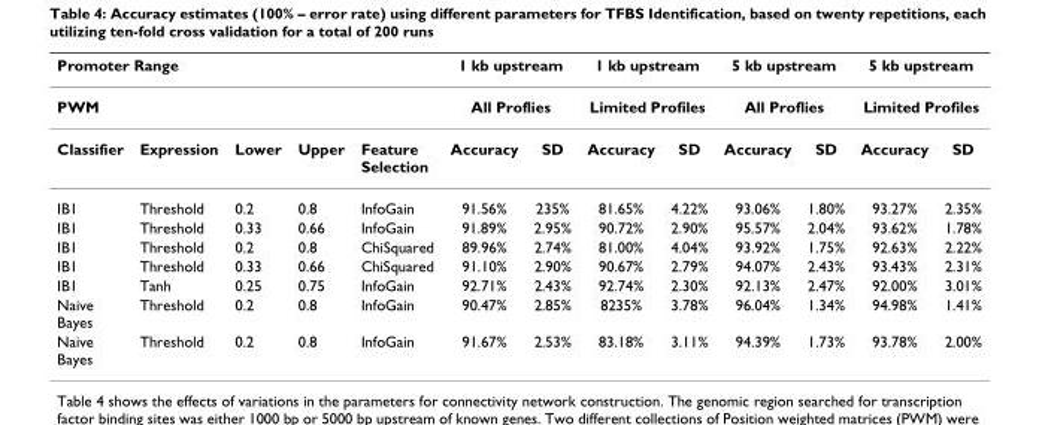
<table><thead><tr><td rowspan="2" colspan="5">Promoter Range PWM</td><td rowspan="2" colspan="2">1 kb upstream All Proflies</td><td rowspan="2" colspan="2">1 kb upstream Limited Profiles</td><td rowspan="2" colspan="2">5 kb upstream All Proflies</td><td rowspan="2" colspan="2">5 kb upstream Limited Profiles</td></tr><tr></tr><tr><td>Classifier</td><td>Expression</td><td>Lower</td><td>Upper</td><td>Feature Selection</td><td>Accuracy</td><td>SD</td><td>Accuracy</td><td>SD</td><td>Accuracy</td><td>SD</td><td>Accuracy</td><td>SD</td></tr></thead><tbody><tr><td>IB1</td><td>Threshold</td><td>0.2</td><td>0.8</td><td>InfoGain</td><td>91.56%</td><td>235%</td><td>81.65%</td><td>4.22%</td><td>93.06%</td><td>1.80%</td><td>93.27%</td><td>2.35%</td></tr><tr><td>IB1</td><td>Threshold</td><td>0.33</td><td>0.66</td><td>InfoGain</td><td>91.89%</td><td>2.95%</td><td>90.72%</td><td>2.90%</td><td>95.57%</td><td>2.04%</td><td>93.62%</td><td>1.78%</td></tr><tr><td>IB1</td><td>Threshold</td><td>0.2</td><td>0.8</td><td>ChiSquared</td><td>89.96%</td><td>2.74%</td><td>81.00%</td><td>4.04%</td><td>93.92%</td><td>1.75%</td><td>92.63%</td><td>2.22%</td></tr><tr><td>IB1</td><td>Threshold</td><td>0.33</td><td>0.66</td><td>ChiSquared</td><td>91.10%</td><td>2.90%</td><td>90.67%</td><td>2.79%</td><td>94.07%</td><td>2.43%</td><td>93.43%</td><td>2.31%</td></tr><tr><td>IB1</td><td>Tanh</td><td>0.25</td><td>0.75</td><td>InfoGain</td><td>92.71%</td><td>2.43%</td><td>92.74%</td><td>2.30%</td><td>92.13%</td><td>2.47%</td><td>92.00%</td><td>3.01%</td></tr><tr><td>Naive Bayes</td><td>Threshold</td><td>0.2</td><td>0.8</td><td>InfoGain</td><td>90.47%</td><td>2.85%</td><td>8235%</td><td>3.78%</td><td>96.04%</td><td>1.34%</td><td>94.98%</td><td>1.41%</td></tr><tr><td>Naive Bayes</td><td>Threshold</td><td>0.2</td><td>0.8</td><td>InfoGain</td><td>91.67%</td><td>2.53%</td><td>83.18%</td><td>3.11%</td><td>94.39%</td><td>1.73%</td><td>93.78%</td><td>2.00%</td></tr></tbody></table>